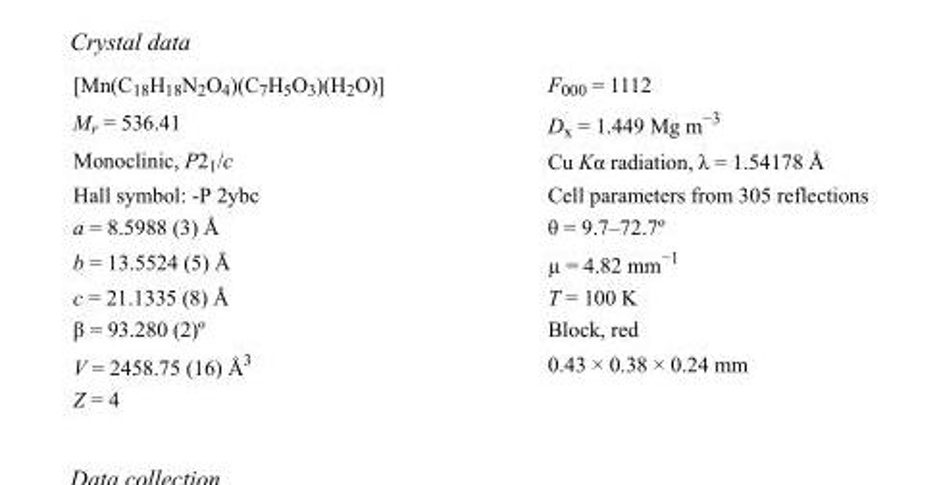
<table><tbody><tr><td>[Mn(C<sub>18</sub>H<sub>18</sub>N<sub>2</sub>O<sub>4</sub>)(C<sub>7</sub>H<sub>5</sub>O<sub>3</sub>)(H<sub>2</sub>O)]</td><td>F000 = 1112</td></tr><tr><td>M<sub>r</sub> = 536.41</td><td>D<sub>x</sub> = 1.449 Mg m<sup>−3</sup></td></tr><tr><td>Monoclinic, P2<sub>1</sub>/c</td><td>Cu Kα radiation, λ = 1.54178 Å</td></tr><tr><td>Hall symbol: -P 2ybc</td><td>Cell parameters from 305 reflections</td></tr><tr><td>a = 8.5988 (3) Å</td><td>θ = 9.7–72.7º</td></tr><tr><td>b = 13.5524 (5) Å</td><td>µ = 4.82 mm<sup>−1</sup></td></tr><tr><td>c = 21.1335 (8) Å</td><td>T = 100 K</td></tr><tr><td>β = 93.280 (2)º</td><td>Block, red</td></tr><tr><td>V = 2458.75 (16) Å<sup>3</sup></td><td>0.43 × 0.38 × 0.24 mm</td></tr><tr><td>Z = 4</td><td></td></tr></tbody></table>